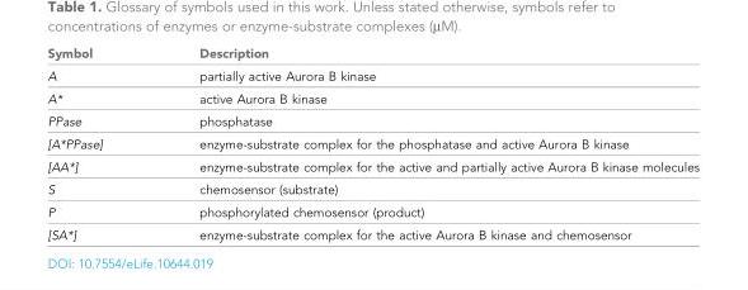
<table><thead><tr><td>Symbol</td><td>Description</td></tr></thead><tbody><tr><td>A</td><td>partially active Aurora B kinase</td></tr><tr><td>A*</td><td>active Aurora B kinase</td></tr><tr><td>PPase</td><td>phosphatase</td></tr><tr><td>[A*PPase]</td><td>enzyme-substrate complex for the phosphatase and active Aurora B kinase</td></tr><tr><td>[AA*]</td><td>enzyme-substrate complex for the active and partially active Aurora B kinase molecules</td></tr><tr><td>S</td><td>chemosensor (substrate)</td></tr><tr><td>P</td><td>phosphorylated chemosensor (product)</td></tr><tr><td>[SA*]</td><td>enzyme-substrate complex for the active Aurora B kinase and chemosensor</td></tr></tbody></table>